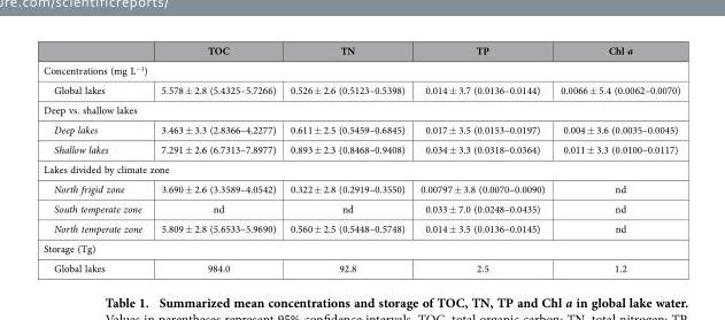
<table><thead><tr><td></td><td>TOC</td><td>TN</td><td>TP</td><td>Chl a</td></tr></thead><tbody><tr><td colspan="5">Concentrations (mg L<sup>−1</sup>)</td></tr><tr><td>Global lakes</td><td>5.578 ± 2.8 (5.4325–5.7266)</td><td>0.526 ± 2.6 (0.5123–0.5398)</td><td>0.014 ± 3.7 (0.0136–0.0144)</td><td>0.0066 ± 5.4 (0.0062–0.0070)</td></tr><tr><td colspan="5">Deep vs. shallow lakes</td></tr><tr><td>Deep lakes</td><td>3.463 ± 3.3 (2.8366–4.2277)</td><td>0.611 ± 2.5 (0.5459–0.6845)</td><td>0.017 ± 3.5 (0.0153–0.0197)</td><td>0.004 ± 3.6 (0.0035–0.0045)</td></tr><tr><td>Shallow lakes</td><td>7.291 ± 2.6 (6.7313–7.8977)</td><td>0.893 ± 2.3 (0.8468–0.9408)</td><td>0.034 ± 3.3 (0.0318–0.0364)</td><td>0.011 ± 3.3 (0.0100–0.0117)</td></tr><tr><td colspan="5">Lakes divided by climate zone</td></tr><tr><td>North frigid zone</td><td>3.690 ± 2.6 (3.3589–4.0542)</td><td>0.322 ± 2.8 (0.2919–0.3550)</td><td>0.00797 ± 3.8 (0.0070–0.0090)</td><td>nd</td></tr><tr><td>South temperate zone</td><td>nd</td><td>nd</td><td>0.033 ± 7.0 (0.0248–0.0435)</td><td>nd</td></tr><tr><td>North temperate zone</td><td>5.809 ± 2.8 (5.6533–5.9690)</td><td>0.560 ± 2.5 (0.5448–0.5748)</td><td>0.014 ± 3.5 (0.0136–0.0145)</td><td>nd</td></tr><tr><td colspan="5">Storage (Tg)</td></tr><tr><td>Global lakes</td><td>984.0</td><td>92.8</td><td>2.5</td><td>1.2</td></tr></tbody></table>